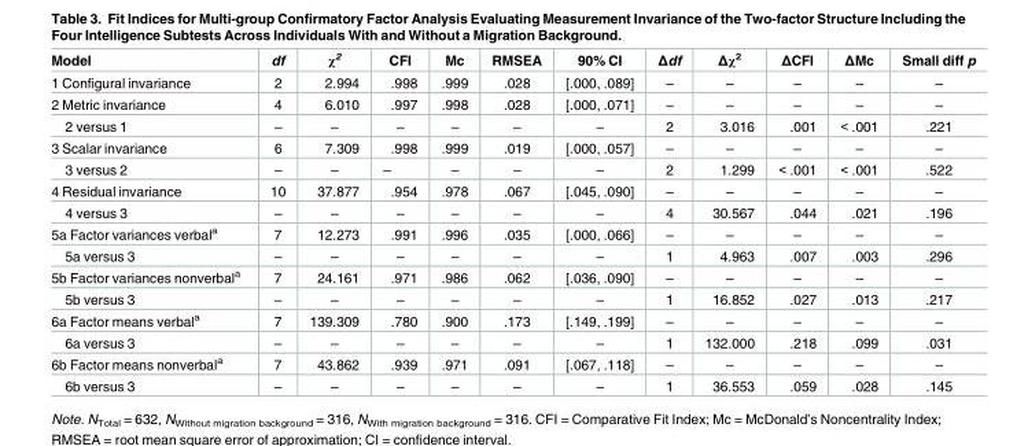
<table><thead><tr><td>Model</td><td>df</td><td>χ<sup>2</sup></td><td>CFI</td><td>Mc</td><td>RMSEA</td><td>90% CI</td><td>Δdf</td><td>Δχ<sup>2</sup></td><td>ΔCFI</td><td>ΔMc</td><td>Small diff p</td></tr></thead><tbody><tr><td>1 Configural invariance</td><td>2</td><td>2.994</td><td>.998</td><td>.999</td><td>.028</td><td>[.000, .089]</td><td>–</td><td>–</td><td>–</td><td>–</td><td>–</td></tr><tr><td>2 Metric invariance</td><td>4</td><td>6.010</td><td>.997</td><td>.998</td><td>.028</td><td>[.000, .071]</td><td>–</td><td>–</td><td>–</td><td>–</td><td>–</td></tr><tr><td>2 versus 1</td><td>–</td><td>–</td><td>–</td><td>–</td><td>–</td><td>–</td><td>2</td><td>3.016</td><td>.001</td><td>&lt; .001</td><td>.221</td></tr><tr><td>3 Scalar invariance</td><td>6</td><td>7.309</td><td>.998</td><td>.999</td><td>.019</td><td>[.000, .057]</td><td>–</td><td>–</td><td>–</td><td>–</td><td>–</td></tr><tr><td>3 versus 2</td><td>–</td><td>–</td><td>–</td><td>–</td><td>–</td><td>–</td><td>2</td><td>1.299</td><td>&lt; .001</td><td>&lt; .001</td><td>.522</td></tr><tr><td>4 Residual invariance</td><td>10</td><td>37.877</td><td>.954</td><td>.978</td><td>.067</td><td>[.045, .090]</td><td>–</td><td>–</td><td>–</td><td>–</td><td>–</td></tr><tr><td>4 versus 3</td><td>–</td><td>–</td><td>–</td><td>–</td><td>–</td><td>–</td><td>4</td><td>30.567</td><td>.044</td><td>.021</td><td>.196</td></tr><tr><td>5a Factor variances verbal<sup>a</sup></td><td>7</td><td>12.273</td><td>.991</td><td>.996</td><td>.035</td><td>[.000, .066]</td><td>–</td><td>–</td><td>–</td><td>–</td><td>–</td></tr><tr><td>5a versus 3</td><td>–</td><td>–</td><td>–</td><td>–</td><td>–</td><td>–</td><td>1</td><td>4.963</td><td>.007</td><td>.003</td><td>.296</td></tr><tr><td>5b Factor variances nonverbal<sup>a</sup></td><td>7</td><td>24.161</td><td>.971</td><td>.986</td><td>.062</td><td>[.036, .090]</td><td>–</td><td>–</td><td>–</td><td>–</td><td>–</td></tr><tr><td>5b versus 3</td><td>–</td><td>–</td><td>–</td><td>–</td><td>–</td><td>–</td><td>1</td><td>16.852</td><td>.027</td><td>.013</td><td>.217</td></tr><tr><td>6a Factor means verbal<sup>a</sup></td><td>7</td><td>139.309</td><td>.780</td><td>.900</td><td>.173</td><td>[.149, .199]</td><td>–</td><td>–</td><td>–</td><td>–</td><td>–</td></tr><tr><td>6a versus 3</td><td>–</td><td>–</td><td>–</td><td>–</td><td>–</td><td>–</td><td>1</td><td>132.000</td><td>.218</td><td>.099</td><td>.031</td></tr><tr><td>6b Factor means nonverbal<sup>a</sup></td><td>7</td><td>43.862</td><td>.939</td><td>.971</td><td>.091</td><td>[.067, .118]</td><td>–</td><td>–</td><td>–</td><td>–</td><td>–</td></tr><tr><td>6b versus 3</td><td>–</td><td>–</td><td>–</td><td>–</td><td>–</td><td>–</td><td>1</td><td>36.553</td><td>.059</td><td>.028</td><td>.145</td></tr></tbody></table>